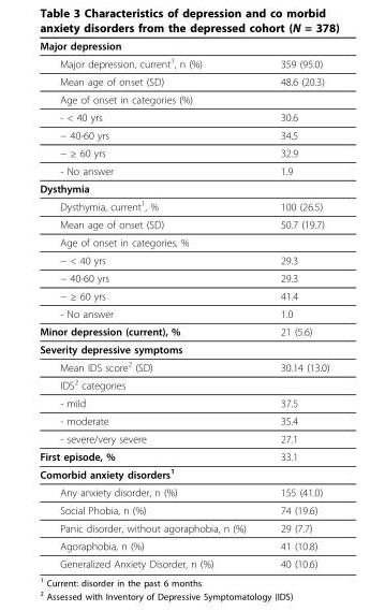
<table><thead><tr><td>Major depression</td><td></td></tr></thead><tbody><tr><td>Major depression, current<sup>1</sup>, n (%)</td><td>359 (95.0)</td></tr><tr><td>Mean age of onset (SD)</td><td>48.6 (20.3)</td></tr><tr><td colspan="2">Age of onset in categories (%)</td></tr><tr><td>- &lt; 40 yrs</td><td>30.6</td></tr><tr><td>− 40-60 yrs</td><td>34.5</td></tr><tr><td>− ≥ 60 yrs</td><td>32.9</td></tr><tr><td>- No answer</td><td>1.9</td></tr><tr><td colspan="2">Dysthymia</td></tr><tr><td>Dysthymia, current<sup>1</sup>, %</td><td>100 (26.5)</td></tr><tr><td>Mean age of onset (SD)</td><td>50.7 (19.7)</td></tr><tr><td colspan="2">Age of onset in categories, %</td></tr><tr><td>− &lt; 40 yrs</td><td>29.3</td></tr><tr><td>− 40-60 yrs</td><td>29.3</td></tr><tr><td>− ≥ 60 yrs</td><td>41.4</td></tr><tr><td>- No answer</td><td>1.0</td></tr><tr><td>Minor depression (current), %</td><td>21 (5.6)</td></tr><tr><td colspan="2">Severity depressive symptoms</td></tr><tr><td>Mean IDS score<sup>2</sup> (SD)</td><td>30.14 (13.0)</td></tr><tr><td colspan="2">IDS<sup>2</sup> categories</td></tr><tr><td>- mild</td><td>37.5</td></tr><tr><td>- moderate</td><td>35.4</td></tr><tr><td>- severe/very severe</td><td>27.1</td></tr><tr><td>First episode, %</td><td>33.1</td></tr><tr><td colspan="2">Comorbid anxiety disorders<sup>1</sup></td></tr><tr><td>Any anxiety disorder, n (%)</td><td>155 (41.0)</td></tr><tr><td>Social Phobia, n (%)</td><td>74 (19.6)</td></tr><tr><td>Panic disorder, without agoraphobia, n (%)</td><td>29 (7.7)</td></tr><tr><td>Agoraphobia, n (%)</td><td>41 (10.8)</td></tr><tr><td>Generalized Anxiety Disorder, n (%)</td><td>40 (10.6)</td></tr></tbody></table>